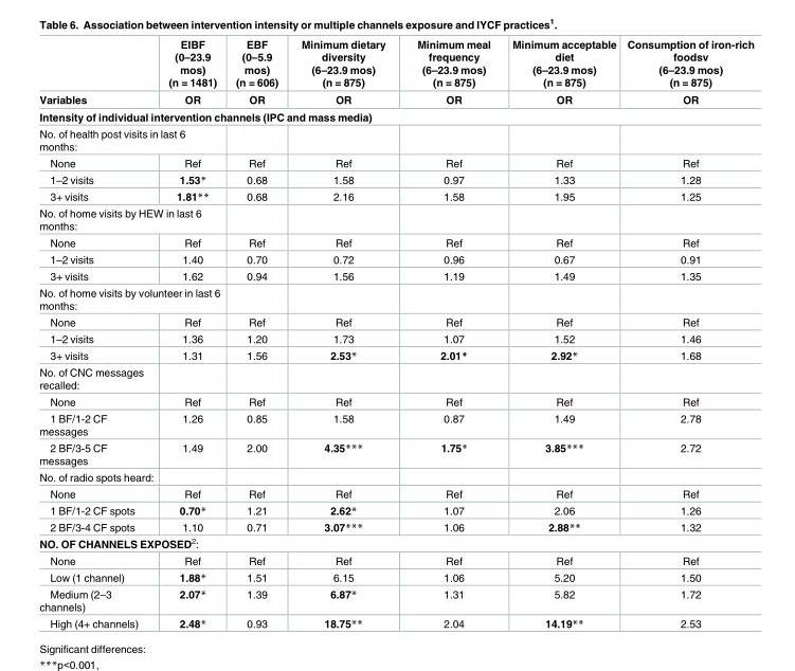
<table><thead><tr><td rowspan="2">Variables</td><td rowspan="2">EIBF (0–23.9 mos) (n = 1481) OR</td><td rowspan="2">EBF (0–5.9 mos) (n = 606) OR</td><td rowspan="2">Minimum dietary diversity (6–23.9 mos) (n = 875) OR</td><td rowspan="2">Minimum meal frequency (6–23.9 mos) (n = 875) OR</td><td rowspan="2">Minimum acceptable diet (6–23.9 mos) (n = 875) OR</td><td rowspan="2">Consumption of iron-rich foodsv (6–23.9 mos) (n = 875) OR</td></tr><tr></tr></thead><tbody><tr><td colspan="7">Intensity of individual intervention channels (IPC and mass media)</td></tr><tr><td colspan="7">No. of health post visits in last 6 months:</td></tr><tr><td>None</td><td>Ref</td><td>Ref</td><td>Ref</td><td>Ref</td><td>Ref</td><td>Ref</td></tr><tr><td>1–2 visits</td><td>1.53*</td><td>0.68</td><td>1.58</td><td>0.97</td><td>1.33</td><td>1.28</td></tr><tr><td>3+ visits</td><td>1.81**</td><td>0.68</td><td>2.16</td><td>1.58</td><td>1.95</td><td>1.25</td></tr><tr><td colspan="7">No. of home visits by HEW in last 6 months:</td></tr><tr><td>None</td><td>Ref</td><td>Ref</td><td>Ref</td><td>Ref</td><td>Ref</td><td>Ref</td></tr><tr><td>1–2 visits</td><td>1.40</td><td>0.70</td><td>0.72</td><td>0.96</td><td>0.67</td><td>0.91</td></tr><tr><td>3+ visits</td><td>1.62</td><td>0.94</td><td>1.56</td><td>1.19</td><td>1.49</td><td>1.35</td></tr><tr><td colspan="7">No. of home visits by volunteer in last 6 months:</td></tr><tr><td>None</td><td>Ref</td><td>Ref</td><td>Ref</td><td>Ref</td><td>Ref</td><td>Ref</td></tr><tr><td>1–2 visits</td><td>1.36</td><td>1.20</td><td>1.73</td><td>1.07</td><td>1.52</td><td>1.46</td></tr><tr><td>3+ visits</td><td>1.31</td><td>1.56</td><td>2.53*</td><td>2.01*</td><td>2.92*</td><td>1.68</td></tr><tr><td colspan="7">No. of CNC messages recalled:</td></tr><tr><td>None</td><td>Ref</td><td>Ref</td><td>Ref</td><td>Ref</td><td>Ref</td><td>Ref</td></tr><tr><td>1 BF/1-2 CF messages</td><td>1.26</td><td>0.85</td><td>1.58</td><td>0.87</td><td>1.49</td><td>2.78</td></tr><tr><td>2 BF/3-5 CF messages</td><td>1.49</td><td>2.00</td><td>4.35***</td><td>1.75*</td><td>3.85***</td><td>2.72</td></tr><tr><td colspan="7">No. of radio spots heard:</td></tr><tr><td>None</td><td>Ref</td><td>Ref</td><td>Ref</td><td>Ref</td><td>Ref</td><td>Ref</td></tr><tr><td>1 BF/1-2 CF spots</td><td>0.70*</td><td>1.21</td><td>2.62*</td><td>1.07</td><td>2.06</td><td>1.26</td></tr><tr><td>2 BF/3-4 CF spots</td><td>1.10</td><td>0.71</td><td>3.07***</td><td>1.06</td><td>2.88**</td><td>1.32</td></tr><tr><td colspan="7">NO. OF CHANNELS EXPOSED<sup>2</sup>:</td></tr><tr><td>None</td><td>Ref</td><td>Ref</td><td>Ref</td><td>Ref</td><td>Ref</td><td>Ref</td></tr><tr><td>Low (1 channel)</td><td>1.88*</td><td>1.51</td><td>6.15</td><td>1.06</td><td>5.20</td><td>1.50</td></tr><tr><td>Medium (2–3 channels)</td><td>2.07*</td><td>1.39</td><td>6.87*</td><td>1.31</td><td>5.82</td><td>1.72</td></tr><tr><td>High (4+ channels)</td><td>2.48*</td><td>0.93</td><td>18.75**</td><td>2.04</td><td>14.19**</td><td>2.53</td></tr></tbody></table>